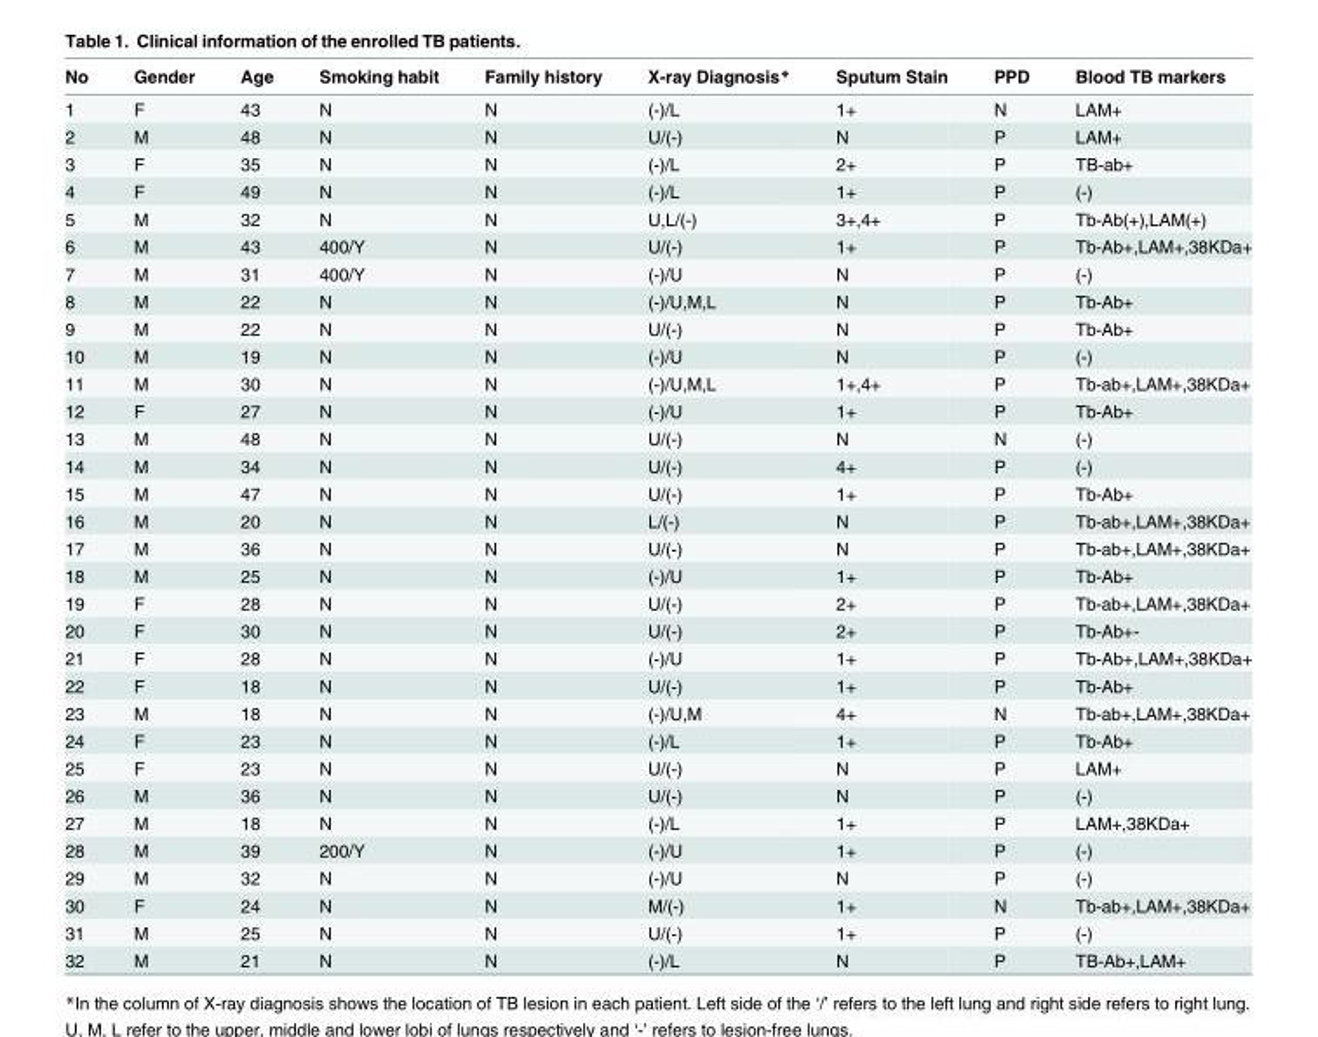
<table><thead><tr><td>No</td><td>Gender</td><td>Age</td><td>Smoking habit</td><td>Family history</td><td>X-ray Diagnosis*</td><td>Sputum Stain</td><td>PPD</td><td>Blood TB markers</td></tr></thead><tbody><tr><td>1</td><td>F</td><td>43</td><td>N</td><td>N</td><td>(-)/L</td><td>1+</td><td>N</td><td>LAM+</td></tr><tr><td>2</td><td>M</td><td>48</td><td>N</td><td>N</td><td>U/(-)</td><td>N</td><td>P</td><td>LAM+</td></tr><tr><td>3</td><td>F</td><td>35</td><td>N</td><td>N</td><td>(-)/L</td><td>2+</td><td>P</td><td>TB-ab+</td></tr><tr><td>4</td><td>F</td><td>49</td><td>N</td><td>N</td><td>(-)/L</td><td>1+</td><td>P</td><td>(-)</td></tr><tr><td>5</td><td>M</td><td>32</td><td>N</td><td>N</td><td>U,L/(-)</td><td>3+,4+</td><td>P</td><td>Tb-Ab(+),LAM(+)</td></tr><tr><td>6</td><td>M</td><td>43</td><td>400/Y</td><td>N</td><td>U/(-)</td><td>1+</td><td>P</td><td>Tb-Ab+,LAM+,38KDa+</td></tr><tr><td>7</td><td>M</td><td>31</td><td>400/Y</td><td>N</td><td>(-)/U</td><td>N</td><td>P</td><td>(-)</td></tr><tr><td>8</td><td>M</td><td>22</td><td>N</td><td>N</td><td>(-)/U,M,L</td><td>N</td><td>P</td><td>Tb-Ab+</td></tr><tr><td>9</td><td>M</td><td>22</td><td>N</td><td>N</td><td>U/(-)</td><td>N</td><td>P</td><td>Tb-Ab+</td></tr><tr><td>10</td><td>M</td><td>19</td><td>N</td><td>N</td><td>(-)/U</td><td>N</td><td>P</td><td>(-)</td></tr><tr><td>11</td><td>M</td><td>30</td><td>N</td><td>N</td><td>(-)/U,M,L</td><td>1+,4+</td><td>P</td><td>Tb-ab+,LAM+,38KDa+</td></tr><tr><td>12</td><td>F</td><td>27</td><td>N</td><td>N</td><td>(-)/U</td><td>1+</td><td>P</td><td>Tb-Ab+</td></tr><tr><td>13</td><td>M</td><td>48</td><td>N</td><td>N</td><td>U/(-)</td><td>N</td><td>N</td><td>(-)</td></tr><tr><td>14</td><td>M</td><td>34</td><td>N</td><td>N</td><td>U/(-)</td><td>4+</td><td>P</td><td>(-)</td></tr><tr><td>15</td><td>M</td><td>47</td><td>N</td><td>N</td><td>U/(-)</td><td>1+</td><td>P</td><td>Tb-Ab+</td></tr><tr><td>16</td><td>M</td><td>20</td><td>N</td><td>N</td><td>L/(-)</td><td>N</td><td>P</td><td>Tb-ab+,LAM+,38KDa+</td></tr><tr><td>17</td><td>M</td><td>36</td><td>N</td><td>N</td><td>U/(-)</td><td>N</td><td>P</td><td>Tb-ab+,LAM+,38KDa+</td></tr><tr><td>18</td><td>M</td><td>25</td><td>N</td><td>N</td><td>(-)/U</td><td>1+</td><td>P</td><td>Tb-Ab+</td></tr><tr><td>19</td><td>F</td><td>28</td><td>N</td><td>N</td><td>U/(-)</td><td>2+</td><td>P</td><td>Tb-ab+,LAM+,38KDa+</td></tr><tr><td>20</td><td>F</td><td>30</td><td>N</td><td>N</td><td>U/(-)</td><td>2+</td><td>P</td><td>Tb-Ab+-</td></tr><tr><td>21</td><td>F</td><td>28</td><td>N</td><td>N</td><td>(-)/U</td><td>1+</td><td>P</td><td>Tb-Ab+,LAM+,38KDa+</td></tr><tr><td>22</td><td>F</td><td>18</td><td>N</td><td>N</td><td>U/(-)</td><td>1+</td><td>P</td><td>Tb-Ab+</td></tr><tr><td>23</td><td>M</td><td>18</td><td>N</td><td>N</td><td>(-)/U,M</td><td>4+</td><td>N</td><td>Tb-ab+,LAM+,38KDa+</td></tr><tr><td>24</td><td>F</td><td>23</td><td>N</td><td>N</td><td>(-)/L</td><td>1+</td><td>P</td><td>Tb-Ab+</td></tr><tr><td>25</td><td>F</td><td>23</td><td>N</td><td>N</td><td>U/(-)</td><td>N</td><td>P</td><td>LAM+</td></tr><tr><td>26</td><td>M</td><td>36</td><td>N</td><td>N</td><td>U/(-)</td><td>N</td><td>P</td><td>(-)</td></tr><tr><td>27</td><td>M</td><td>18</td><td>N</td><td>N</td><td>(-)/L</td><td>1+</td><td>P</td><td>LAM+,38KDa+</td></tr><tr><td>28</td><td>M</td><td>39</td><td>200/Y</td><td>N</td><td>(-)/U</td><td>1+</td><td>P</td><td>(-)</td></tr><tr><td>29</td><td>M</td><td>32</td><td>N</td><td>N</td><td>(-)/U</td><td>N</td><td>P</td><td>(-)</td></tr><tr><td>30</td><td>F</td><td>24</td><td>N</td><td>N</td><td>M/(-)</td><td>1+</td><td>N</td><td>Tb-ab+,LAM+,38KDa+</td></tr><tr><td>31</td><td>M</td><td>25</td><td>N</td><td>N</td><td>U/(-)</td><td>1+</td><td>P</td><td>(-)</td></tr><tr><td>32</td><td>M</td><td>21</td><td>N</td><td>N</td><td>(-)/L</td><td>N</td><td>P</td><td>TB-Ab+,LAM+</td></tr></tbody></table>